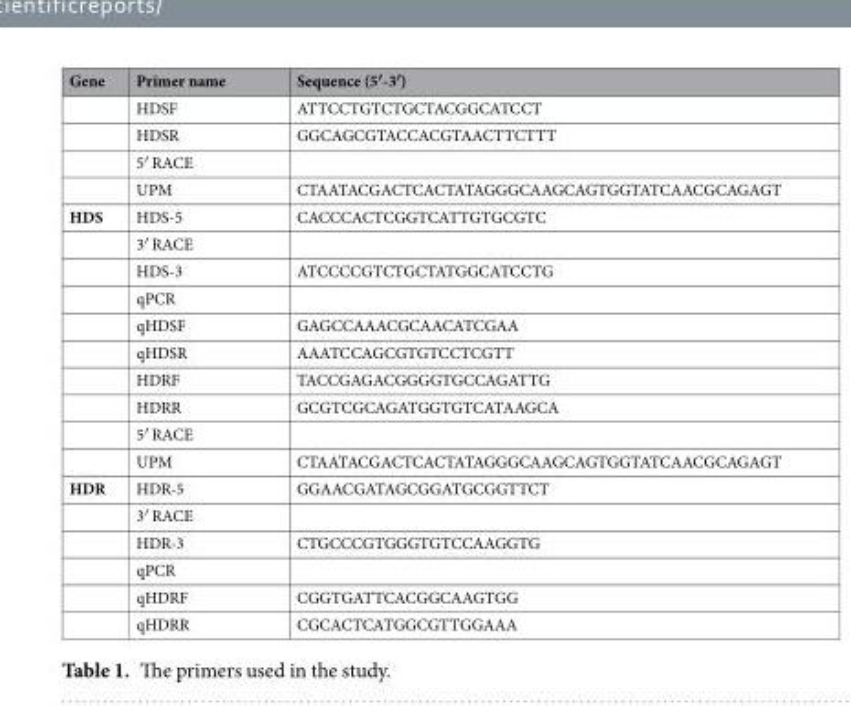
<table><thead><tr><td>Gene</td><td>Primer name</td><td>Sequence (5′-3′)</td></tr></thead><tbody><tr><td></td><td>HDSF</td><td>ATTCCTGTCTGCTACGGCATCCT</td></tr><tr><td></td><td>HDSR</td><td>GGCAGCGTACCACGTAACTTCTTT</td></tr><tr><td></td><td>5′ RACE</td><td></td></tr><tr><td></td><td>UPM</td><td>CTAATACGACTCACTATAGGGCAAGCAGTGGTATCAACGCAGAGT</td></tr><tr><td rowspan="10">HDS</td><td>HDS-5</td><td>CACCCACTCGGTCATTGTGCGTC</td></tr><tr><td>3′ RACE</td><td></td></tr><tr><td>HDS-3</td><td>ATCCCCGTCTGCTATGGCATCCTG</td></tr><tr><td>qPCR</td><td></td></tr><tr><td>qHDSF</td><td>GAGCCAAACGCAACATCGAA</td></tr><tr><td>qHDSR</td><td>AAATCCAGCGTGTCCTCGTT</td></tr><tr><td>HDRF</td><td>TACCGAGACGGGGTGCCAGATTG</td></tr><tr><td>HDRR</td><td>GCGTCGCAGATGGTGTCATAAGCA</td></tr><tr><td>5′ RACE</td><td></td></tr><tr><td>UPM</td><td>CTAATACGACTCACTATAGGGCAAGCAGTGGTATCAACGCAGAGT</td></tr><tr><td rowspan="6">HDR</td><td>HDR-5</td><td>GGAACGATAGCGGATGCGGTTCT</td></tr><tr><td>3′ RACE</td><td></td></tr><tr><td>HDR-3</td><td>CTGCCCGTGGGTGTCCAAGGTG</td></tr><tr><td>qPCR</td><td></td></tr><tr><td>qHDRF</td><td>CGGTGATTCACGGCAAGTGG</td></tr><tr><td>qHDRR</td><td>CGCACTCATGGCGTTGGAAA</td></tr></tbody></table>